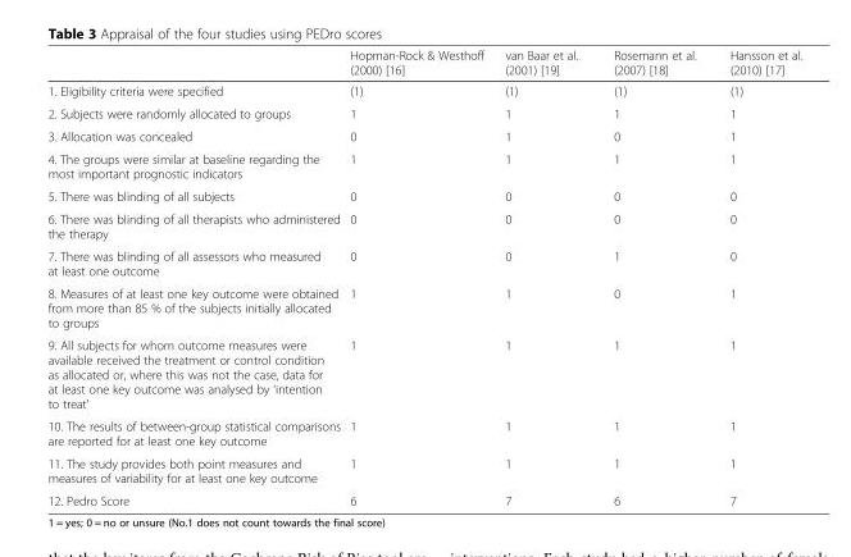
<table><thead><tr><td></td><td>Hopman-Rock &amp; Westhoff (2000) [16]</td><td>van Baar et al. (2001) [19]</td><td>Rosemann et al. (2007) [18]</td><td>Hansson et al. (2010) [17]</td></tr></thead><tbody><tr><td>1. Eligibility criteria were specified</td><td>(1)</td><td>(1)</td><td>(1)</td><td>(1)</td></tr><tr><td>2. Subjects were randomly allocated to groups</td><td>1</td><td>1</td><td>1</td><td>1</td></tr><tr><td>3. Allocation was concealed</td><td>0</td><td>1</td><td>0</td><td>1</td></tr><tr><td>4. The groups were similar at baseline regarding the most important prognostic indicators</td><td>1</td><td>1</td><td>1</td><td>1</td></tr><tr><td>5. There was blinding of all subjects</td><td>0</td><td>0</td><td>0</td><td>0</td></tr><tr><td>6. There was blinding of all therapists who administered the therapy</td><td>0</td><td>0</td><td>0</td><td>0</td></tr><tr><td>7. There was blinding of all assessors who measured at least one outcome</td><td>0</td><td>0</td><td>1</td><td>0</td></tr><tr><td>8. Measures of at least one key outcome were obtained from more than 85 % of the subjects initially allocated to groups</td><td>1</td><td>1</td><td>0</td><td>1</td></tr><tr><td>9. All subjects for whom outcome measures were available received the treatment or control condition as allocated or, where this was not the case, data for at least one key outcome was analysed by ‘intention to treat’</td><td>1</td><td>1</td><td>1</td><td>1</td></tr><tr><td>10. The results of between-group statistical comparisons are reported for at least one key outcome</td><td>1</td><td>1</td><td>1</td><td>1</td></tr><tr><td>11. The study provides both point measures and measures of variability for at least one key outcome</td><td>1</td><td>1</td><td>1</td><td>1</td></tr><tr><td>12. Pedro Score</td><td>6</td><td>7</td><td>6</td><td>7</td></tr></tbody></table>